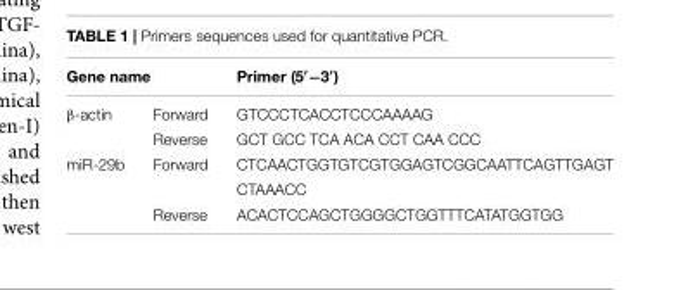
<table><thead><tr><td colspan="2">Gene name</td><td rowspan="2">Primer (5′−3′) GTCCCTCACCTCCCAAAAG</td></tr><tr><td>β-actin</td><td>Forward</td></tr></thead><tbody><tr><td></td><td>Reverse</td><td>GCT GCC TCA ACA CCT CAA CCC</td></tr><tr><td rowspan="3">miR-29b</td><td>Forward</td><td>CTCAACTGGTGTCGTGGAGTCGGCAATTCAGTTGAGT</td></tr><tr><td></td><td>CTAAACC</td></tr><tr><td>Reverse</td><td>ACACTCCAGCTGGGGCTGGTTTCATATGGTGG</td></tr></tbody></table>